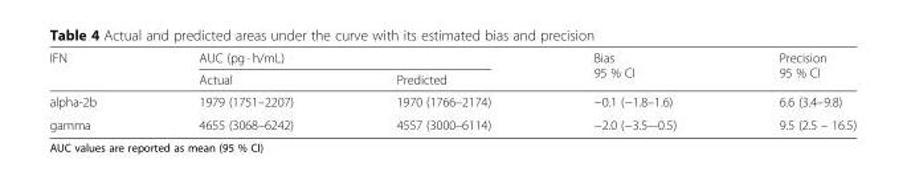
<table><thead><tr><td rowspan="2">IFN</td><td colspan="2">AUC (pg · h/mL)</td><td rowspan="2">Bias 95 % CI</td><td rowspan="2">Precision 95 % CI</td></tr><tr><td>Actual</td><td>Predicted</td></tr></thead><tbody><tr><td>alpha-2b</td><td>1979 (1751–2207)</td><td>1970 (1766–2174)</td><td>−0.1 (−1.8–1.6)</td><td>6.6 (3.4–9.8)</td></tr><tr><td>gamma</td><td>4655 (3068–6242)</td><td>4557 (3000–6114)</td><td>−2.0 (−3.5–-0.5)</td><td>9.5 (2.5 – 16.5)</td></tr></tbody></table>